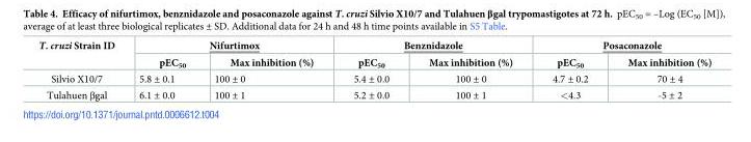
<table><thead><tr><td rowspan="2">T. cruzi Strain ID</td><td colspan="2">Nifurtimox</td><td colspan="2">Benznidazole</td><td colspan="2">Posaconazole</td></tr><tr><td>pEC<sub>50</sub></td><td>Max inhibition (%)</td><td>pEC<sub>50</sub></td><td>Max inhibition (%)</td><td>pEC<sub>50</sub></td><td>Max inhibition (%)</td></tr></thead><tbody><tr><td>Silvio X10/7</td><td>5.8 ± 0.1</td><td>100 ± 0</td><td>5.4 ± 0.0</td><td>100 ± 0</td><td>4.7 ± 0.2</td><td>70 ± 4</td></tr><tr><td>Tulahuen βgal</td><td>6.1 ± 0.0</td><td>100 ± 1</td><td>5.2 ± 0.0</td><td>100 ± 1</td><td>&lt;4.3</td><td>-5 ± 2</td></tr></tbody></table>